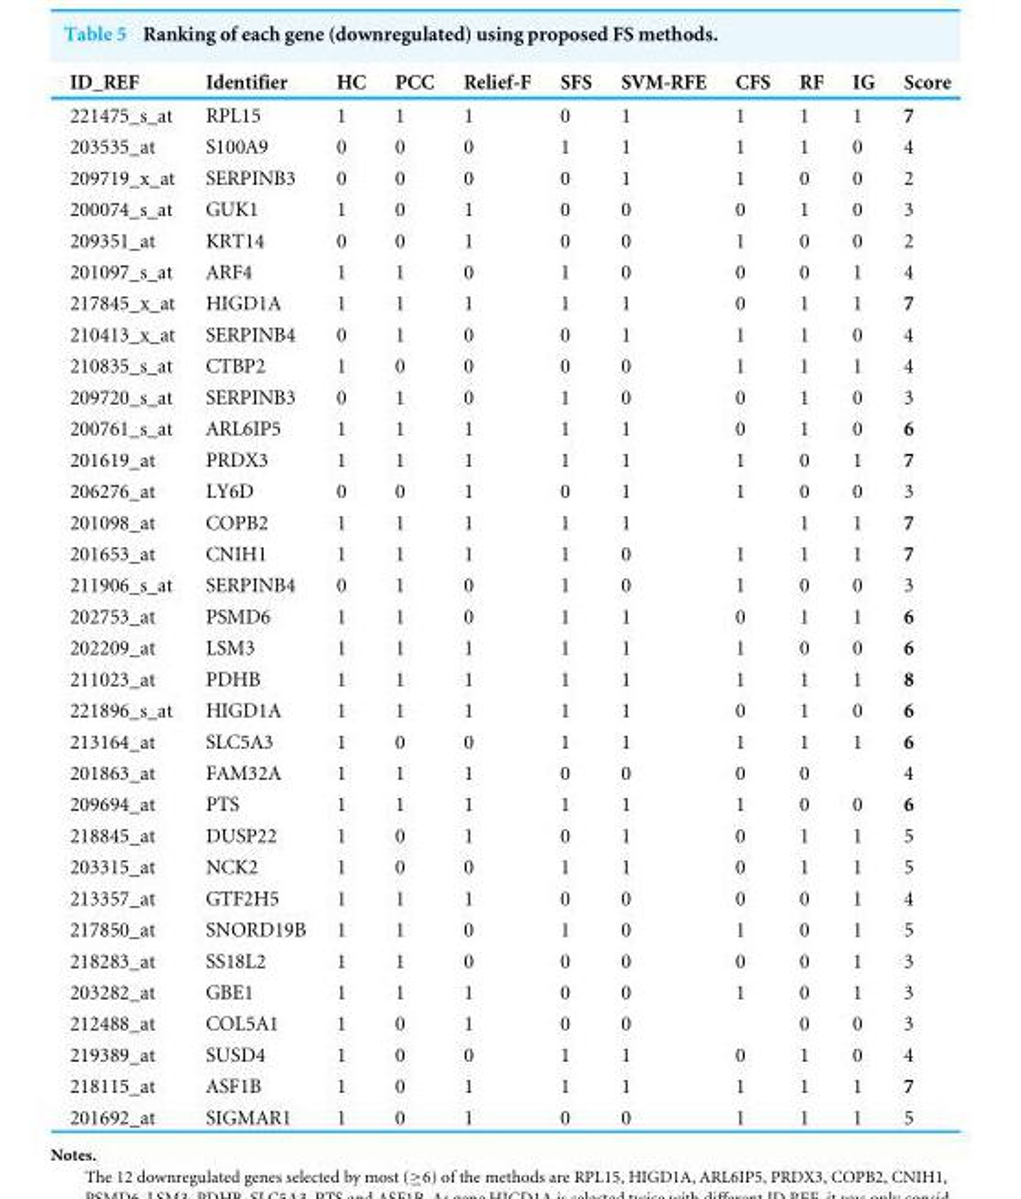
<table><thead><tr><td>ID_REF</td><td>Identifier</td><td>HC</td><td>PCC</td><td>Relief-F</td><td>SFS</td><td>SVM-RFE</td><td>CFS</td><td>RF</td><td>IG</td><td>Score</td></tr></thead><tbody><tr><td>221475_s_at</td><td>RPL15</td><td>1</td><td>1</td><td>1</td><td>0</td><td>1</td><td>1</td><td>1</td><td>1</td><td>7</td></tr><tr><td>203535_at</td><td>S100A9</td><td>0</td><td>0</td><td>0</td><td>1</td><td>1</td><td>1</td><td>1</td><td>0</td><td>4</td></tr><tr><td>209719_x_at</td><td>SERPINB3</td><td>0</td><td>0</td><td>0</td><td>0</td><td>1</td><td>1</td><td>0</td><td>0</td><td>2</td></tr><tr><td>200074_s_at</td><td>GUK1</td><td>1</td><td>0</td><td>1</td><td>0</td><td>0</td><td>0</td><td>1</td><td>0</td><td>3</td></tr><tr><td>209351_at</td><td>KRT14</td><td>0</td><td>0</td><td>1</td><td>0</td><td>0</td><td>1</td><td>0</td><td>0</td><td>2</td></tr><tr><td>201097_s_at</td><td>ARF4</td><td>1</td><td>1</td><td>0</td><td>1</td><td>0</td><td>0</td><td>0</td><td>1</td><td>4</td></tr><tr><td>217845_x_at</td><td>HIGD1A</td><td>1</td><td>1</td><td>1</td><td>1</td><td>1</td><td>0</td><td>1</td><td>1</td><td>7</td></tr><tr><td>210413_x_at</td><td>SERPINB4</td><td>0</td><td>1</td><td>0</td><td>0</td><td>1</td><td>1</td><td>1</td><td>0</td><td>4</td></tr><tr><td>210835_s_at</td><td>CTBP2</td><td>1</td><td>0</td><td>0</td><td>0</td><td>0</td><td>1</td><td>1</td><td>1</td><td>4</td></tr><tr><td>209720_s_at</td><td>SERPINB3</td><td>0</td><td>1</td><td>0</td><td>1</td><td>0</td><td>0</td><td>1</td><td>0</td><td>3</td></tr><tr><td>200761_s_at</td><td>ARL6IP5</td><td>1</td><td>1</td><td>1</td><td>1</td><td>1</td><td>0</td><td>1</td><td>0</td><td>6</td></tr><tr><td>201619_at</td><td>PRDX3</td><td>1</td><td>1</td><td>1</td><td>1</td><td>1</td><td>1</td><td>0</td><td>1</td><td>7</td></tr><tr><td>206276_at</td><td>LY6D</td><td>0</td><td>0</td><td>1</td><td>0</td><td>1</td><td>1</td><td>0</td><td>0</td><td>3</td></tr><tr><td>201098_at</td><td>COPB2</td><td>1</td><td>1</td><td>1</td><td>1</td><td>1</td><td></td><td>1</td><td>1</td><td>7</td></tr><tr><td>201653_at</td><td>CNIH1</td><td>1</td><td>1</td><td>1</td><td>1</td><td>0</td><td>1</td><td>1</td><td>1</td><td>7</td></tr><tr><td>211906_s_at</td><td>SERPINB4</td><td>0</td><td>1</td><td>0</td><td>1</td><td>0</td><td>1</td><td>0</td><td>0</td><td>3</td></tr><tr><td>202753_at</td><td>PSMD6</td><td>1</td><td>1</td><td>0</td><td>1</td><td>1</td><td>0</td><td>1</td><td>1</td><td>6</td></tr><tr><td>202209_at</td><td>LSM3</td><td>1</td><td>1</td><td>1</td><td>1</td><td>1</td><td>1</td><td>0</td><td>0</td><td>6</td></tr><tr><td>211023_at</td><td>PDHB</td><td>1</td><td>1</td><td>1</td><td>1</td><td>1</td><td>1</td><td>1</td><td>1</td><td>8</td></tr><tr><td>221896_s_at</td><td>HIGD1A</td><td>1</td><td>1</td><td>1</td><td>1</td><td>1</td><td>0</td><td>1</td><td>0</td><td>6</td></tr><tr><td>213164_at</td><td>SLC5A3</td><td>1</td><td>0</td><td>0</td><td>1</td><td>1</td><td>1</td><td>1</td><td>1</td><td>6</td></tr><tr><td>201863_at</td><td>FAM32A</td><td>1</td><td>1</td><td>1</td><td>0</td><td>0</td><td>0</td><td>0</td><td></td><td>4</td></tr><tr><td>209694_at</td><td>PTS</td><td>1</td><td>1</td><td>1</td><td>1</td><td>1</td><td>1</td><td>0</td><td>0</td><td>6</td></tr><tr><td>218845_at</td><td>DUSP22</td><td>1</td><td>0</td><td>1</td><td>0</td><td>1</td><td>0</td><td>1</td><td>1</td><td>5</td></tr><tr><td>203315_at</td><td>NCK2</td><td>1</td><td>0</td><td>0</td><td>1</td><td>1</td><td>0</td><td>1</td><td>1</td><td>5</td></tr><tr><td>213357_at</td><td>GTF2H5</td><td>1</td><td>1</td><td>1</td><td>0</td><td>0</td><td>0</td><td>0</td><td>1</td><td>4</td></tr><tr><td>217850_at</td><td>SNORD19B</td><td>1</td><td>1</td><td>0</td><td>1</td><td>0</td><td>1</td><td>0</td><td>1</td><td>5</td></tr><tr><td>218283_at</td><td>SS18L2</td><td>1</td><td>1</td><td>0</td><td>0</td><td>0</td><td>0</td><td>0</td><td>1</td><td>3</td></tr><tr><td>203282_at</td><td>GBE1</td><td>1</td><td>1</td><td>1</td><td>0</td><td>0</td><td>1</td><td>0</td><td>1</td><td>3</td></tr><tr><td>212488_at</td><td>COL5A1</td><td>1</td><td>0</td><td>1</td><td>0</td><td>0</td><td></td><td>0</td><td>0</td><td>3</td></tr><tr><td>219389_at</td><td>SUSD4</td><td>1</td><td>0</td><td>0</td><td>1</td><td>1</td><td>0</td><td>1</td><td>0</td><td>4</td></tr><tr><td>218115_at</td><td>ASF1B</td><td>1</td><td>0</td><td>1</td><td>1</td><td>1</td><td>1</td><td>1</td><td>1</td><td>7</td></tr><tr><td>201692_at</td><td>SIGMAR1</td><td>1</td><td>0</td><td>1</td><td>0</td><td>0</td><td>1</td><td>1</td><td>1</td><td>5</td></tr></tbody></table>